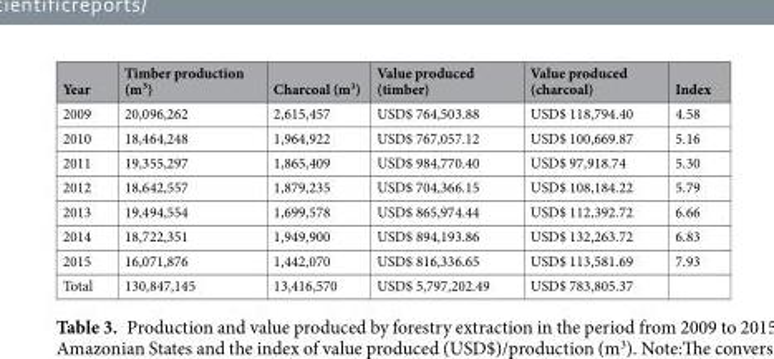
<table><thead><tr><td>Year</td><td>Timber production (m³)</td><td>Charcoal (m<sup>3</sup>)</td><td>Value produced (timber)</td><td>Value produced (charcoal)</td><td>Index</td></tr></thead><tbody><tr><td>2009</td><td>20,096,262</td><td>2,615,457</td><td>USD$ 764,503.88</td><td>USD$ 118,794.40</td><td>4.58</td></tr><tr><td>2010</td><td>18,464,248</td><td>1,964,922</td><td>USD$ 767,057.12</td><td>USD$ 100,669.87</td><td>5.16</td></tr><tr><td>2011</td><td>19,355,297</td><td>1,865,409</td><td>USD$ 984,770.40</td><td>USD$ 97,918.74</td><td>5.30</td></tr><tr><td>2012</td><td>18,642,557</td><td>1,879,235</td><td>USD$ 704,366.15</td><td>USD$ 108,184.22</td><td>5.79</td></tr><tr><td>2013</td><td>19,494,554</td><td>1,699,578</td><td>USD$ 865,974.44</td><td>USD$ 112,392.72</td><td>6.66</td></tr><tr><td>2014</td><td>18,722,351</td><td>1,949,900</td><td>USD$ 894,193.86</td><td>USD$ 132,263.72</td><td>6.83</td></tr><tr><td>2015</td><td>16,071,876</td><td>1,442,070</td><td>USD$ 816,336.65</td><td>USD$ 113,581.69</td><td>7.93</td></tr><tr><td>Total</td><td>130,847,145</td><td>13,416,570</td><td>USD$ 5,797,202.49</td><td>USD$ 783,805.37</td><td></td></tr></tbody></table>